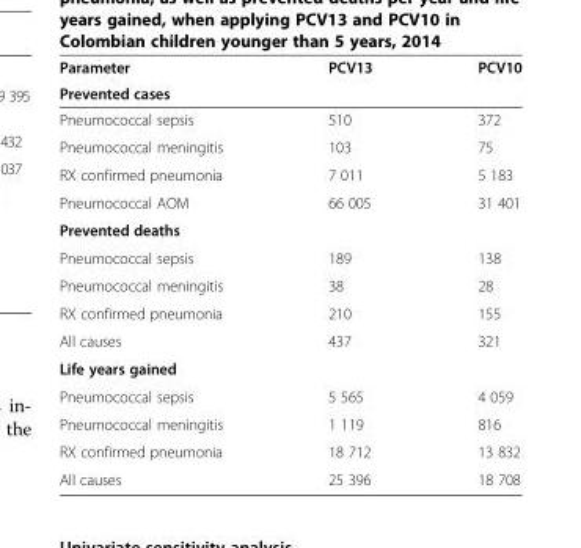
<table><thead><tr><td>Parameter</td><td>PCV13</td><td>PCV10</td></tr><tr><td colspan="3">Prevented cases</td></tr></thead><tbody><tr><td>Pneumococcal sepsis</td><td>510</td><td>372</td></tr><tr><td>Pneumococcal meningitis</td><td>103</td><td>75</td></tr><tr><td>RX confirmed pneumonia</td><td>7 011</td><td>5 183</td></tr><tr><td>Pneumococcal AOM</td><td>66 005</td><td>31 401</td></tr><tr><td colspan="3">Prevented deaths</td></tr><tr><td>Pneumococcal sepsis</td><td>189</td><td>138</td></tr><tr><td>Pneumococcal meningitis</td><td>38</td><td>28</td></tr><tr><td>RX confirmed pneumonia</td><td>210</td><td>155</td></tr><tr><td>All causes</td><td>437</td><td>321</td></tr><tr><td colspan="3">Life years gained</td></tr><tr><td>Pneumococcal sepsis</td><td>5 565</td><td>4 059</td></tr><tr><td>Pneumococcal meningitis</td><td>1 119</td><td>816</td></tr><tr><td>RX confirmed pneumonia</td><td>18 712</td><td>13 832</td></tr><tr><td>All causes</td><td>25 396</td><td>18 708</td></tr></tbody></table>